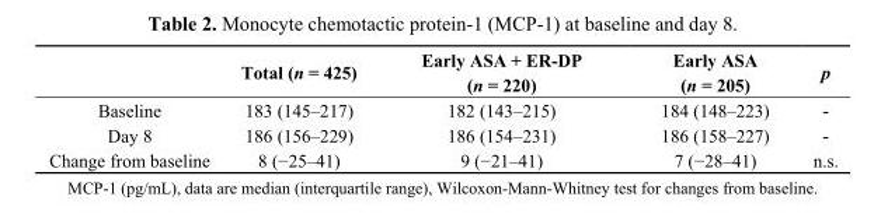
<table><thead><tr><td></td><td>Total (n = 425)</td><td>Early ASA + ER-DP (n = 220)</td><td>Early ASA (n = 205)</td><td>p</td></tr></thead><tbody><tr><td>Baseline</td><td>183 (145–217)</td><td>182 (143–215)</td><td>184 (148–223)</td><td>-</td></tr><tr><td>Day 8</td><td>186 (156–229)</td><td>186 (154–231)</td><td>186 (158–227)</td><td>-</td></tr><tr><td>Change from baseline</td><td>8 (−25–41)</td><td>9 (−21–41)</td><td>7 (−28–41)</td><td>n.s.</td></tr></tbody></table>